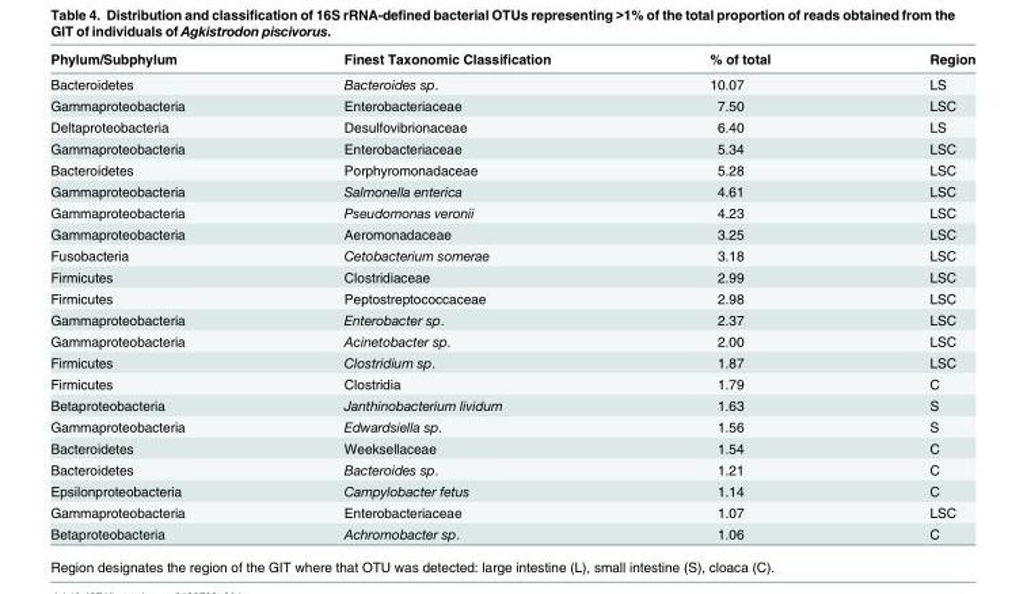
<table><thead><tr><td>Phylum/Subphylum</td><td>Finest Taxonomic Classification</td><td>% of total</td><td>Region</td></tr></thead><tbody><tr><td>Bacteroidetes</td><td>Bacteroides sp.</td><td>10.07</td><td>LS</td></tr><tr><td>Gammaproteobacteria</td><td>Enterobacteriaceae</td><td>7.50</td><td>LSC</td></tr><tr><td>Deltaproteobacteria</td><td>Desulfovibrionaceae</td><td>6.40</td><td>LS</td></tr><tr><td>Gammaproteobacteria</td><td>Enterobacteriaceae</td><td>5.34</td><td>LSC</td></tr><tr><td>Bacteroidetes</td><td>Porphyromonadaceae</td><td>5.28</td><td>LSC</td></tr><tr><td>Gammaproteobacteria</td><td>Salmonella enterica</td><td>4.61</td><td>LSC</td></tr><tr><td>Gammaproteobacteria</td><td>Pseudomonas veronii</td><td>4.23</td><td>LSC</td></tr><tr><td>Gammaproteobacteria</td><td>Aeromonadaceae</td><td>3.25</td><td>LSC</td></tr><tr><td>Fusobacteria</td><td>Cetobacterium somerae</td><td>3.18</td><td>LSC</td></tr><tr><td>Firmicutes</td><td>Clostridiaceae</td><td>2.99</td><td>LSC</td></tr><tr><td>Firmicutes</td><td>Peptostreptococcaceae</td><td>2.98</td><td>LSC</td></tr><tr><td>Gammaproteobacteria</td><td>Enterobacter sp.</td><td>2.37</td><td>LSC</td></tr><tr><td>Gammaproteobacteria</td><td>Acinetobacter sp.</td><td>2.00</td><td>LSC</td></tr><tr><td>Firmicutes</td><td>Clostridium sp.</td><td>1.87</td><td>LSC</td></tr><tr><td>Firmicutes</td><td>Clostridia</td><td>1.79</td><td>C</td></tr><tr><td>Betaproteobacteria</td><td>Janthinobacterium lividum</td><td>1.63</td><td>S</td></tr><tr><td>Gammaproteobacteria</td><td>Edwardsiella sp.</td><td>1.56</td><td>S</td></tr><tr><td>Bacteroidetes</td><td>Weeksellaceae</td><td>1.54</td><td>C</td></tr><tr><td>Bacteroidetes</td><td>Bacteroides sp.</td><td>1.21</td><td>C</td></tr><tr><td>Epsilonproteobacteria</td><td>Campylobacter fetus</td><td>1.14</td><td>C</td></tr><tr><td>Gammaproteobacteria</td><td>Enterobacteriaceae</td><td>1.07</td><td>LSC</td></tr><tr><td>Betaproteobacteria</td><td>Achromobacter sp.</td><td>1.06</td><td>C</td></tr></tbody></table>